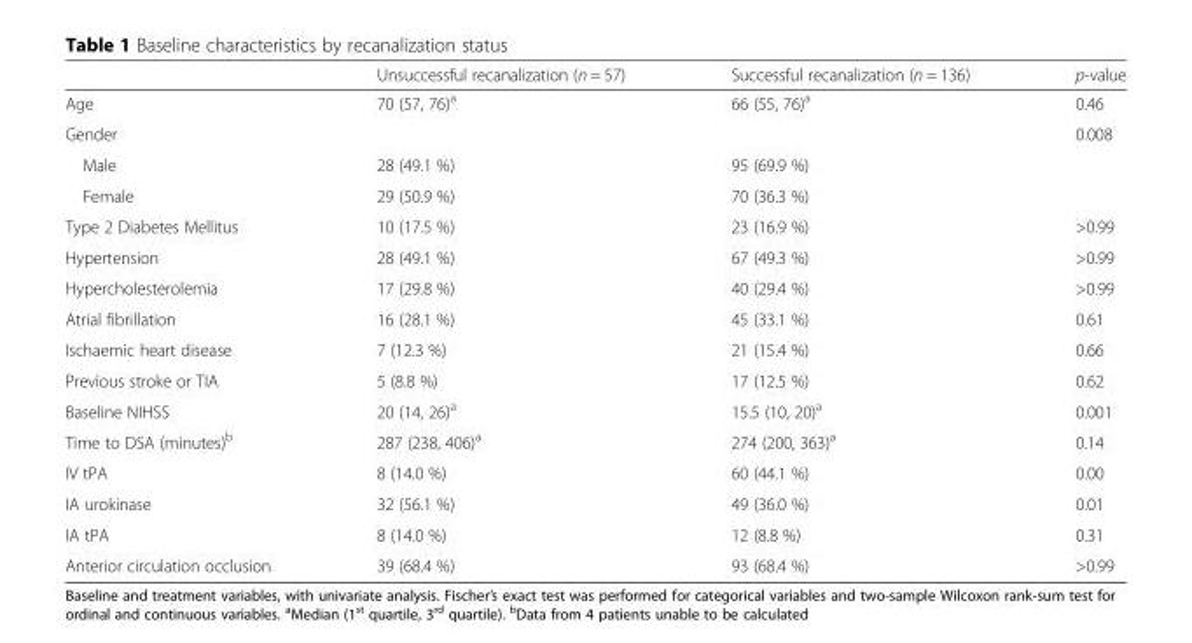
<table><thead><tr><td></td><td>Unsuccessful recanalization (n = 57)</td><td>Successful recanalization (n = 136)</td><td>p-value</td></tr></thead><tbody><tr><td>Age</td><td>70 (57, 76)<sup>a</sup></td><td>66 (55, 76)<sup>a</sup></td><td>0.46</td></tr><tr><td>Gender</td><td></td><td></td><td>0.008</td></tr><tr><td>Male</td><td>28 (49.1 %)</td><td>95 (69.9 %)</td><td></td></tr><tr><td>Female</td><td>29 (50.9 %)</td><td>70 (36.3 %)</td><td></td></tr><tr><td>Type 2 Diabetes Mellitus</td><td>10 (17.5 %)</td><td>23 (16.9 %)</td><td>&gt;0.99</td></tr><tr><td>Hypertension</td><td>28 (49.1 %)</td><td>67 (49.3 %)</td><td>&gt;0.99</td></tr><tr><td>Hypercholesterolemia</td><td>17 (29.8 %)</td><td>40 (29.4 %)</td><td>&gt;0.99</td></tr><tr><td>Atrial fibrillation</td><td>16 (28.1 %)</td><td>45 (33.1 %)</td><td>0.61</td></tr><tr><td>Ischaemic heart disease</td><td>7 (12.3 %)</td><td>21 (15.4 %)</td><td>0.66</td></tr><tr><td>Previous stroke or TIA</td><td>5 (8.8 %)</td><td>17 (12.5 %)</td><td>0.62</td></tr><tr><td>Baseline NIHSS</td><td>20 (14, 26)<sup>a</sup></td><td>15.5 (10, 20)<sup>a</sup></td><td>0.001</td></tr><tr><td>Time to DSA (minutes)<sup>b</sup></td><td>287 (238, 406)<sup>a</sup></td><td>274 (200, 363)<sup>a</sup></td><td>0.14</td></tr><tr><td>IV tPA</td><td>8 (14.0 %)</td><td>60 (44.1 %)</td><td>0.00</td></tr><tr><td>IA urokinase</td><td>32 (56.1 %)</td><td>49 (36.0 %)</td><td>0.01</td></tr><tr><td>IA tPA</td><td>8 (14.0 %)</td><td>12 (8.8 %)</td><td>0.31</td></tr><tr><td>Anterior circulation occlusion</td><td>39 (68.4 %)</td><td>93 (68.4 %)</td><td>&gt;0.99</td></tr></tbody></table>